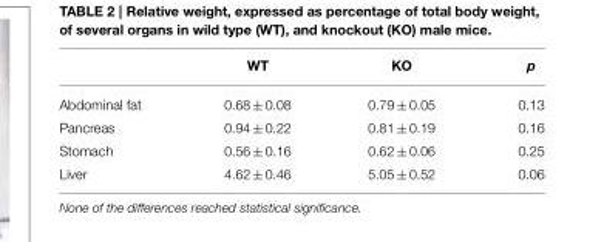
<table><thead><tr><td></td><td>WT</td><td>KO</td><td>p</td></tr></thead><tbody><tr><td>Abdominal fat</td><td>0.68 ± 0.08</td><td>0.79 ± 0.05</td><td>0.13</td></tr><tr><td>Pancreas</td><td>0.94 ± 0.22</td><td>0.81 ± 0.19</td><td>0.16</td></tr><tr><td>Stomach</td><td>0.56 ± 0.16</td><td>0.62 ± 0.06</td><td>0.25</td></tr><tr><td>Liver</td><td>4.62 ± 0.46</td><td>5.05 ± 0.52</td><td>0.06</td></tr></tbody></table>